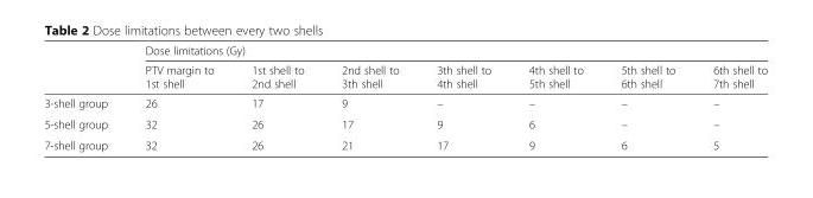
<table><thead><tr><td rowspan="2"></td><td colspan="7">Dose limitations (Gy)</td></tr><tr><td>PTV margin to 1st shell</td><td>1st shell to 2nd shell</td><td>2nd shell to 3th shell</td><td>3th shell to 4th shell</td><td>4th shell to 5th shell</td><td>5th shell to 6th shell</td><td>6th shell to 7th shell</td></tr></thead><tbody><tr><td>3-shell group</td><td>26</td><td>17</td><td>9</td><td>–</td><td>–</td><td>–</td><td>–</td></tr><tr><td>5-shell group</td><td>32</td><td>26</td><td>17</td><td>9</td><td>6</td><td>–</td><td>–</td></tr><tr><td>7-shell group</td><td>32</td><td>26</td><td>21</td><td>17</td><td>9</td><td>6</td><td>5</td></tr></tbody></table>